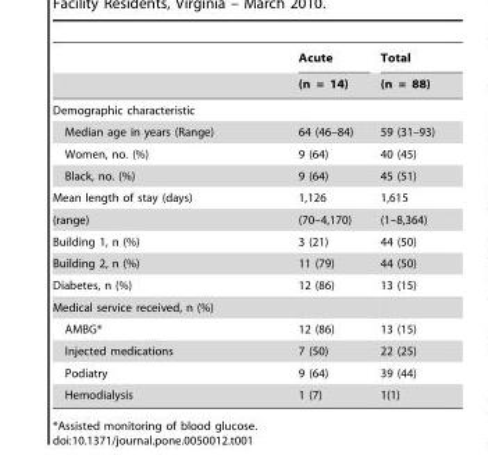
<table><thead><tr><td rowspan="2"></td><td rowspan="2">Acute (n = 14)</td><td rowspan="2">Total (n = 88)</td></tr><tr></tr></thead><tbody><tr><td colspan="3">Demographic characteristic</td></tr><tr><td>Median age in years (Range)</td><td>64 (46–84)</td><td>59 (31–93)</td></tr><tr><td>Women, no. (%)</td><td>9 (64)</td><td>40 (45)</td></tr><tr><td>Black, no. (%)</td><td>9 (64)</td><td>45 (51)</td></tr><tr><td>Mean length of stay (days)</td><td>1,126</td><td>1,615</td></tr><tr><td>(range)</td><td>(70–4,170)</td><td>(1–8,364)</td></tr><tr><td>Building 1, n (%)</td><td>3 (21)</td><td>44 (50)</td></tr><tr><td>Building 2, n (%)</td><td>11 (79)</td><td>44 (50)</td></tr><tr><td>Diabetes, n (%)</td><td>12 (86)</td><td>13 (15)</td></tr><tr><td colspan="3">Medical service received, n (%)</td></tr><tr><td>AMBG*</td><td>12 (86)</td><td>13 (15)</td></tr><tr><td>Injected medications</td><td>7 (50)</td><td>22 (25)</td></tr><tr><td>Podiatry</td><td>9 (64)</td><td>39 (44)</td></tr><tr><td>Hemodialysis</td><td>1 (7)</td><td>1(1)</td></tr></tbody></table>